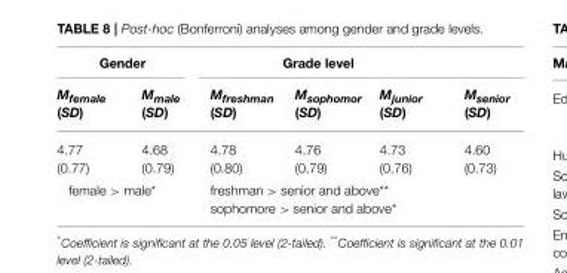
<table><thead><tr><td colspan="2">Gender</td><td colspan="4">Grade level</td></tr><tr><td>Mfemale (SD)</td><td>Mmale (SD)</td><td>Mfreshman (SD)</td><td>Msophomor (SD)</td><td>Mjunior (SD)</td><td>Msenior (SD)</td></tr></thead><tbody><tr><td>4.77 (0.77)</td><td>4.68 (0.79)</td><td>4.78 (0.80)</td><td>4.76 (0.79)</td><td>4.73 (0.76)</td><td>4.60 (0.73)</td></tr><tr><td colspan="2">female &gt; male*</td><td colspan="4">freshman &gt; senior and above** sophomore &gt; senior and above*</td></tr></tbody></table>